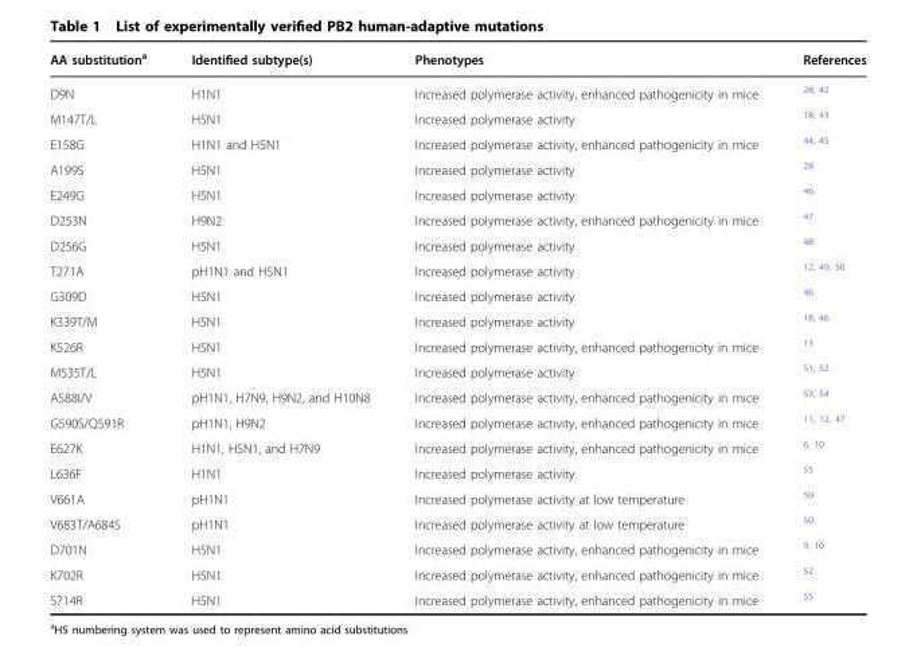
<table><thead><tr><td>AA substitution<sup>a</sup></td><td>Identified subtype(s)</td><td>Phenotypes</td><td>References</td></tr></thead><tbody><tr><td>D9N</td><td>H1N1</td><td>Increased polymerase activity, enhanced pathogenicity in mice</td><td><sup>28, 42</sup></td></tr><tr><td>M147T/L</td><td>H5N1</td><td>Increased polymerase activity</td><td><sup>18, 43</sup></td></tr><tr><td>E158G</td><td>H1N1 and H5N1</td><td>Increased polymerase activity, enhanced pathogenicity in mice</td><td><sup>44, 45</sup></td></tr><tr><td>A199S</td><td>H5N1</td><td>Increased polymerase activity</td><td><sup>28</sup></td></tr><tr><td>E249G</td><td>H5N1</td><td>Increased polymerase activity</td><td><sup>46</sup></td></tr><tr><td>D253N</td><td>H9N2</td><td>Increased polymerase activity, enhanced pathogenicity in mice</td><td><sup>47</sup></td></tr><tr><td>D256G</td><td>H5N1</td><td>Increased polymerase activity</td><td><sup>48</sup></td></tr><tr><td>T271A</td><td>pH1N1 and H5N1</td><td>Increased polymerase activity</td><td><sup>12, 49, 50</sup></td></tr><tr><td>G309D</td><td>H5N1</td><td>Increased polymerase activity</td><td><sup>46</sup></td></tr><tr><td>K339T/M</td><td>H5N1</td><td>Increased polymerase activity</td><td><sup>18, 46</sup></td></tr><tr><td>K526R</td><td>H5N1</td><td>Increased polymerase activity, enhanced pathogenicity in mice</td><td><sup>13</sup></td></tr><tr><td>M535T/L</td><td>H5N1</td><td>Increased polymerase activity</td><td><sup>51, 52</sup></td></tr><tr><td>A588I/V</td><td>pH1N1, H7N9, H9N2, and H10N8</td><td>Increased polymerase activity, enhanced pathogenicity in mice</td><td><sup>53, 54</sup></td></tr><tr><td>G590S/Q591R</td><td>pH1N1, H9N2</td><td>Increased polymerase activity, enhanced pathogenicity in mice</td><td><sup>11, 12, 47</sup></td></tr><tr><td>E627K</td><td>H1N1, H5N1, and H7N9</td><td>Increased polymerase activity, enhanced pathogenicity in mice</td><td><sup>6, 10</sup></td></tr><tr><td>L636F</td><td>H1N1</td><td>Increased polymerase activity</td><td><sup>55</sup></td></tr><tr><td>V661A</td><td>pH1N1</td><td>Increased polymerase activity at low temperature</td><td><sup>50</sup></td></tr><tr><td>V683T/A684S</td><td>pH1N1</td><td>Increased polymerase activity at low temperature</td><td><sup>50</sup></td></tr><tr><td>D701N</td><td>H5N1</td><td>Increased polymerase activity, enhanced pathogenicity in mice</td><td><sup>9, 10</sup></td></tr><tr><td>K702R</td><td>H5N1</td><td>Increased polymerase activity, enhanced pathogenicity in mice</td><td><sup>52</sup></td></tr><tr><td>S714R</td><td>H5N1</td><td>Increased polymerase activity, enhanced pathogenicity in mice</td><td><sup>55</sup></td></tr></tbody></table>